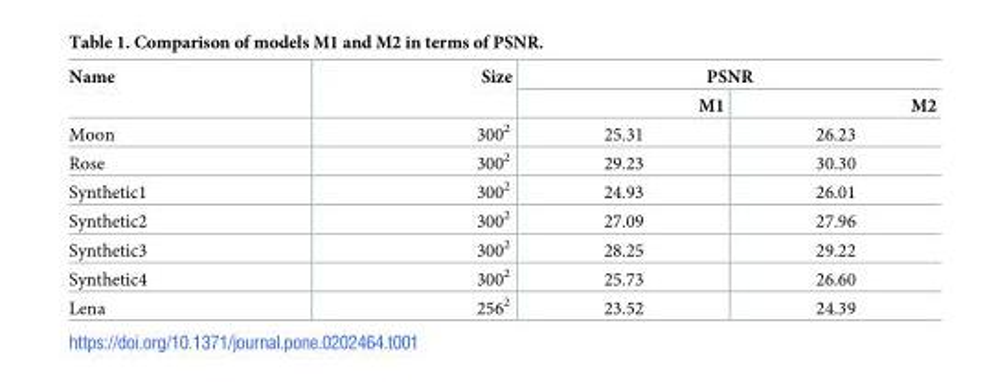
<table><thead><tr><td rowspan="2">Name</td><td rowspan="2">Size</td><td colspan="2">PSNR</td></tr><tr><td>M1</td><td>M2</td></tr></thead><tbody><tr><td>Moon</td><td>300<sup>2</sup></td><td>25.31</td><td>26.23</td></tr><tr><td>Rose</td><td>300<sup>2</sup></td><td>29.23</td><td>30.30</td></tr><tr><td>Synthetic1</td><td>300<sup>2</sup></td><td>24.93</td><td>26.01</td></tr><tr><td>Synthetic2</td><td>300<sup>2</sup></td><td>27.09</td><td>27.96</td></tr><tr><td>Synthetic3</td><td>300<sup>2</sup></td><td>28.25</td><td>29.22</td></tr><tr><td>Synthetic4</td><td>300<sup>2</sup></td><td>25.73</td><td>26.60</td></tr><tr><td>Lena</td><td>256<sup>2</sup></td><td>23.52</td><td>24.39</td></tr></tbody></table>